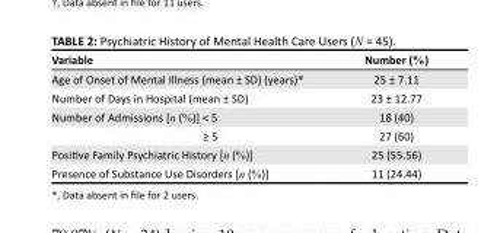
<table><thead><tr><td>Variable</td><td>Number (%)</td></tr></thead><tbody><tr><td>Age of Onset of Mental Illness (mean ± SD) (years)*</td><td>25 ± 7.11</td></tr><tr><td>Number of Days in Hospital (mean ± SD)</td><td>23 ± 12.77</td></tr><tr><td>Number of Admissions [n (%)] &lt; 5</td><td>18 (40)</td></tr><tr><td>≥ 5</td><td>27 (60)</td></tr><tr><td>Positive Family Psychiatric History [n (%)]</td><td>25 (55.56)</td></tr><tr><td>Presence of Substance Use Disorders [n (%)]</td><td>11 (24.44)</td></tr></tbody></table>